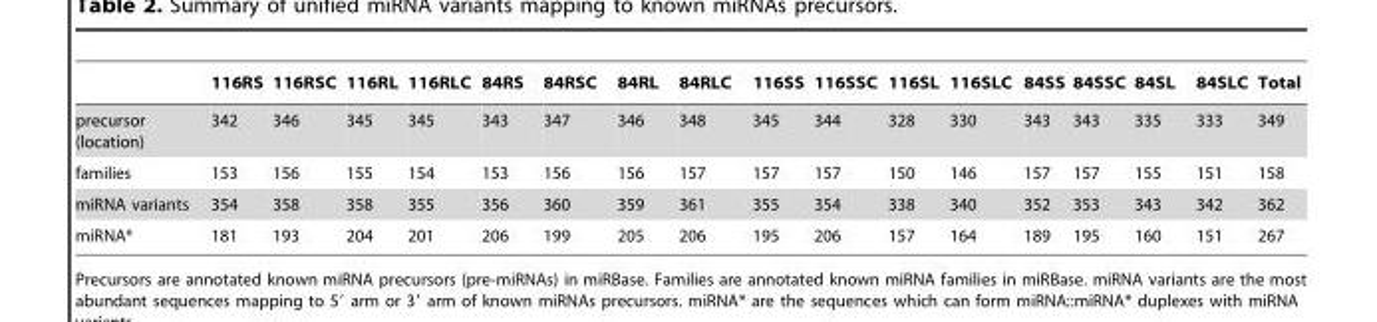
<table><thead><tr><td></td><td>116RS</td><td>116RSC</td><td>116RL</td><td>116RLC</td><td>84RS</td><td>84RSC</td><td>84RL</td><td>84RLC</td><td>116SS</td><td>116SSC</td><td>116SL</td><td>116SLC</td><td>84SS</td><td>84SSC</td><td>84SL</td><td>84SLC</td><td>Total</td></tr></thead><tbody><tr><td>precursor (location)</td><td>342</td><td>346</td><td>345</td><td>345</td><td>343</td><td>347</td><td>346</td><td>348</td><td>345</td><td>344</td><td>328</td><td>330</td><td>343</td><td>343</td><td>335</td><td>333</td><td>349</td></tr><tr><td>families</td><td>153</td><td>156</td><td>155</td><td>154</td><td>153</td><td>156</td><td>156</td><td>157</td><td>157</td><td>157</td><td>150</td><td>146</td><td>157</td><td>157</td><td>155</td><td>151</td><td>158</td></tr><tr><td>miRNA variants</td><td>354</td><td>358</td><td>358</td><td>355</td><td>356</td><td>360</td><td>359</td><td>361</td><td>355</td><td>354</td><td>338</td><td>340</td><td>352</td><td>353</td><td>343</td><td>342</td><td>362</td></tr><tr><td>miRNA*</td><td>181</td><td>193</td><td>204</td><td>201</td><td>206</td><td>199</td><td>205</td><td>206</td><td>195</td><td>206</td><td>157</td><td>164</td><td>189</td><td>195</td><td>160</td><td>151</td><td>267</td></tr></tbody></table>